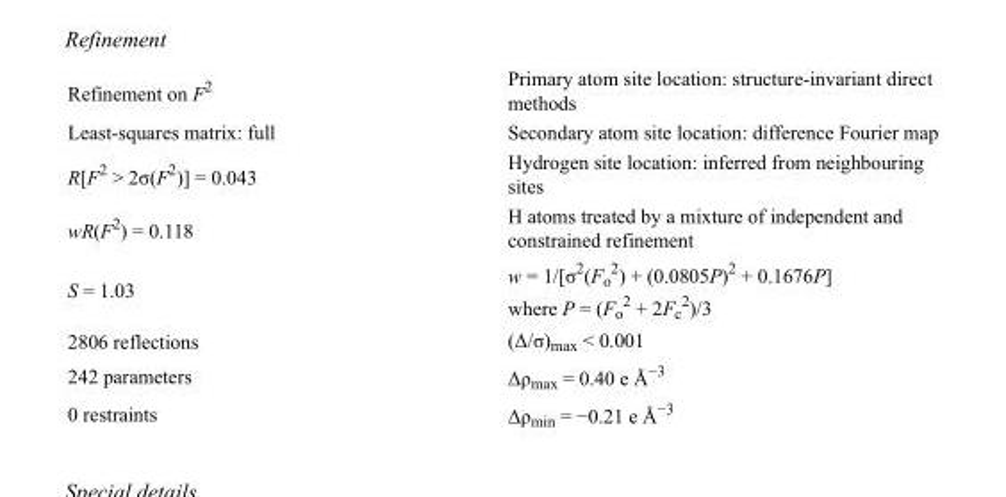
<table><tbody><tr><td>Refinement on F<sup>2</sup></td><td>Primary atom site location: structure-invariant direct methods</td></tr><tr><td>Least-squares matrix: full</td><td>Secondary atom site location: difference Fourier map</td></tr><tr><td>R[F<sup>2</sup> &gt; 2σ(F<sup>2</sup>)] = 0.043</td><td>Hydrogen site location: inferred from neighbouring sites</td></tr><tr><td>wR(F<sup>2</sup>) = 0.118</td><td>H atoms treated by a mixture of independent and constrained refinement</td></tr><tr><td>S = 1.03</td><td>w = 1/[σ<sup>2</sup>(F<sub>o</sub> <sup>2</sup>) + (0.0805P)<sup>2</sup> + 0.1676P] where P = (F<sub>o</sub> <sup>2</sup> + 2F<sub>c</sub> <sup>2</sup>)/3</td></tr><tr><td>2806 reflections</td><td>(Δ/σ)<sub>max</sub> &lt; 0.001</td></tr><tr><td>242 parameters</td><td>Δρ<sub>max</sub> = 0.40 e Å<sup>−3</sup></td></tr><tr><td>0 restraints</td><td>Δρ<sub>min</sub> = −0.21 e Å<sup>−3</sup></td></tr></tbody></table>